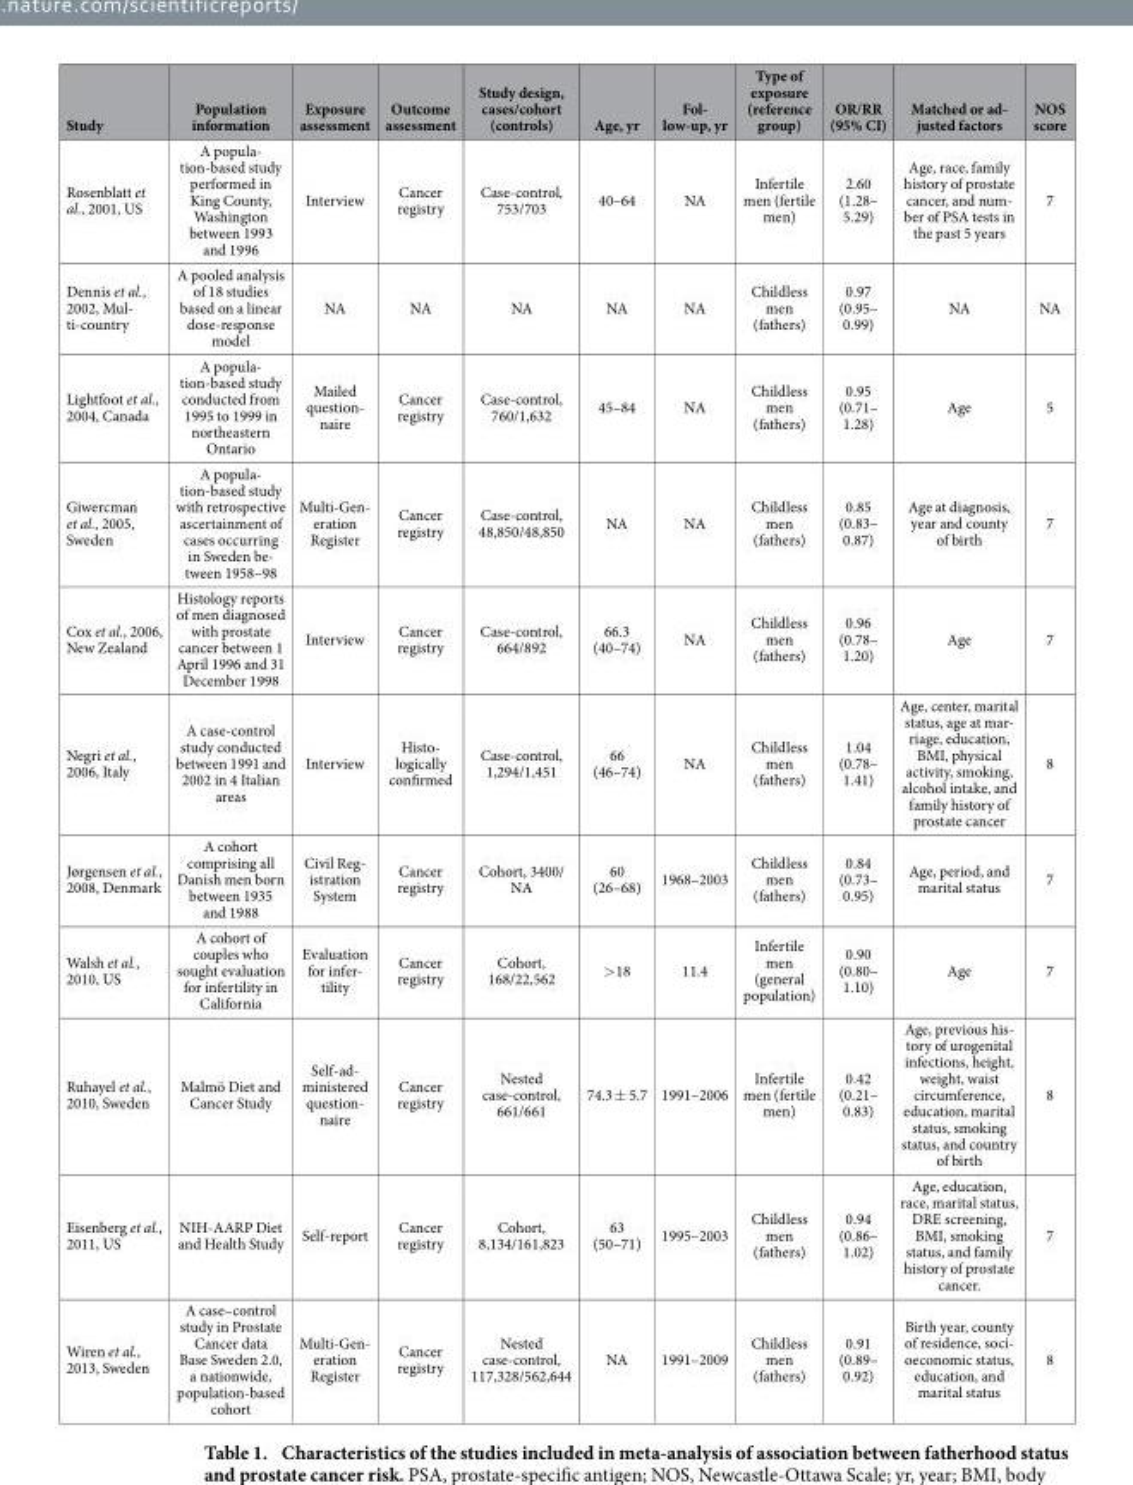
<table><thead><tr><td>Study</td><td>Population information</td><td>Exposure assessment</td><td>Outcome assessment</td><td>Study design, cases/cohort (controls)</td><td>Age, yr</td><td>Fol- low-up, yr</td><td>Type of exposure (reference group)</td><td>OR/RR (95% CI)</td><td>Matched or ad- justed factors</td><td>NOS score</td></tr></thead><tbody><tr><td>Rosenblatt et al., 2001, US</td><td>A popula- tion-based study performed in King County, Washington between 1993 and 1996</td><td>Interview</td><td>Cancer registry</td><td>Case-control, 753/703</td><td>40–64</td><td>NA</td><td>Infertile men (fertile men)</td><td>2.60 (1.28– 5.29)</td><td>Age, race, family history of prostate cancer, and num- ber of PSA tests in the past 5 years</td><td>7</td></tr><tr><td>Dennis et al., 2002, Mul- ti-country</td><td>A pooled analysis of 18 studies based on a linear dose-response model</td><td>NA</td><td>NA</td><td>NA</td><td>NA</td><td>NA</td><td>Childless men (fathers)</td><td>0.97 (0.95– 0.99)</td><td>NA</td><td>NA</td></tr><tr><td>Lightfoot et al., 2004, Canada</td><td>A popula- tion-based study conducted from 1995 to 1999 in northeastern Ontario</td><td>Mailed question- naire</td><td>Cancer registry</td><td>Case-control, 760/1,632</td><td>45–84</td><td>NA</td><td>Childless men (fathers)</td><td>0.95 (0.71– 1.28)</td><td>Age</td><td>5</td></tr><tr><td>Giwercman et al., 2005, Sweden</td><td>A popula- tion-based study with retrospective ascertainment of cases occurring in Sweden be- tween 1958–98</td><td>Multi-Gen- eration Register</td><td>Cancer registry</td><td>Case-control, 48,850/48,850</td><td>NA</td><td>NA</td><td>Childless men (fathers)</td><td>0.85 (0.83– 0.87)</td><td>Age at diagnosis, year and county of birth</td><td>7</td></tr><tr><td>Cox et al., 2006, New Zealand</td><td>Histology reports of men diagnosed with prostate cancer between 1 April 1996 and 31 December 1998</td><td>Interview</td><td>Cancer registry</td><td>Case-control, 664/892</td><td>66.3 (40–74)</td><td>NA</td><td>Childless men (fathers)</td><td>0.96 (0.78– 1.20)</td><td>Age</td><td>7</td></tr><tr><td>Negri et al., 2006, Italy</td><td>A case-control study conducted between 1991 and 2002 in 4 Italian areas</td><td>Interview</td><td>Histo- logically confirmed</td><td>Case-control, 1,294/1,451</td><td>66 (46–74)</td><td>NA</td><td>Childless men (fathers)</td><td>1.04 (0.78– 1.41)</td><td>Age, center, marital status, age at mar- riage, education, BMI, physical activity, smoking, alcohol intake, and family history of prostate cancer</td><td>8</td></tr><tr><td>Jørgensen et al., 2008, Denmark</td><td>A cohort comprising all Danish men born between 1935 and 1988</td><td>Civil Reg- istration System</td><td>Cancer registry</td><td>Cohort, 3400/ NA</td><td>60 (26–68)</td><td>1968–2003</td><td>Childless men (fathers)</td><td>0.84 (0.73– 0.95)</td><td>Age, period, and marital status</td><td>7</td></tr><tr><td>Walsh et al., 2010, US</td><td>A cohort of couples who sought evaluation for infertility in California</td><td>Evaluation for infer- tility</td><td>Cancer registry</td><td>Cohort, 168/22,562</td><td>&gt; 18</td><td>11.4</td><td>Infertile men (general population)</td><td>0.90 (0.80– 1.10)</td><td>Age</td><td>7</td></tr><tr><td>Ruhayel et al., 2010, Sweden</td><td>Malmö Diet and Cancer Study</td><td>Self-ad- ministered question- naire</td><td>Cancer registry</td><td>Nested case-control, 661/661</td><td>74.3 ± 5.7</td><td>1991–2006</td><td>Infertile men (fertile men)</td><td>0.42 (0.21– 0.83)</td><td>Age, previous his- tory of urogenital infections, height, weight, waist circumference, education, marital status, smoking status, and country of birth</td><td>8</td></tr><tr><td>Eisenberg et al., 2011, US</td><td>NIH-AARP Diet and Health Study</td><td>Self-report</td><td>Cancer registry</td><td>Cohort, 8,134/161,823</td><td>63 (50–71)</td><td>1995–2003</td><td>Childless men (fathers)</td><td>0.94 (0.86– 1.02)</td><td>Age, education, race, marital status, DRE screening, BMI, smoking status, and family history of prostate cancer.</td><td>7</td></tr><tr><td>Wiren et al., 2013, Sweden</td><td>A case–control study in Prostate Cancer data Base Sweden 2.0, a nationwide, population-based cohort</td><td>Multi-Gen- eration Register</td><td>Cancer registry</td><td>Nested case-control, 117,328/562,644</td><td>NA</td><td>1991–2009</td><td>Childless men (fathers)</td><td>0.91 (0.89– 0.92)</td><td>Birth year, county of residence, soci- oeconomic status, education, and marital status</td><td>8</td></tr></tbody></table>